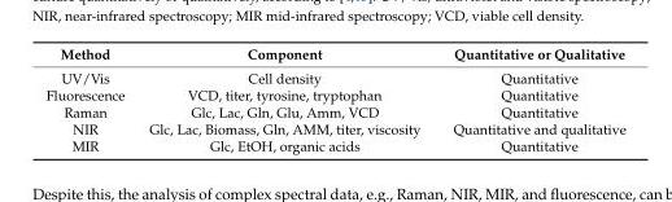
<table><thead><tr><td>Method</td><td>Component</td><td>Quantitative or Qualitative</td></tr></thead><tbody><tr><td>UV/Vis</td><td>Cell density</td><td>Quantitative</td></tr><tr><td>Fluorescence</td><td>VCD, titer, tyrosine, tryptophan</td><td>Quantitative</td></tr><tr><td>Raman</td><td>Glc, Lac, Gln, Glu, Amm, VCD</td><td>Quantitative</td></tr><tr><td>NIR</td><td>Glc, Lac, Biomass, Gln, AMM, titer, viscosity</td><td>Quantitative and qualitative</td></tr><tr><td>MIR</td><td>Glc, EtOH, organic acids</td><td>Quantitative</td></tr></tbody></table>